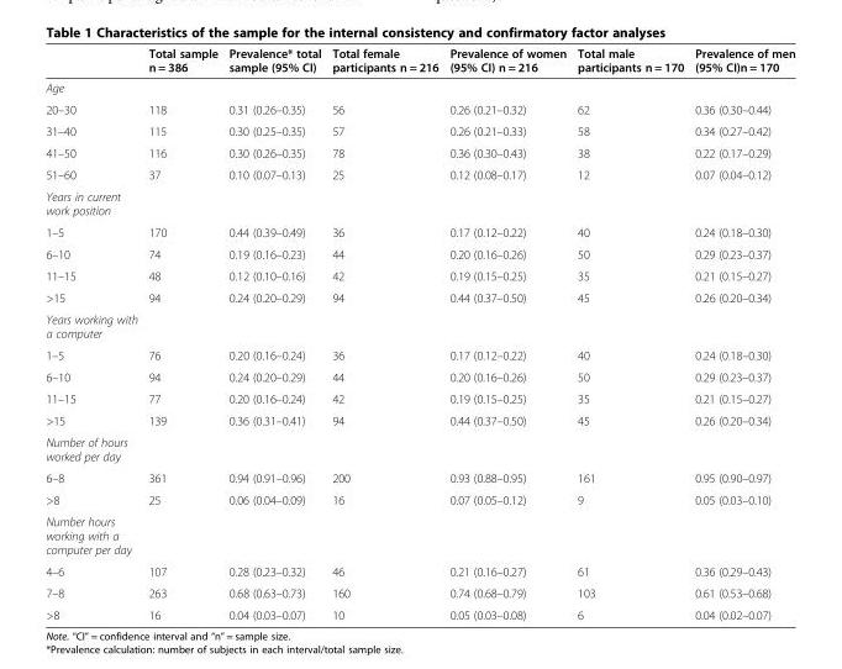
<table><thead><tr><td></td><td>Total sample n = 386</td><td>Prevalence* total sample (95% CI)</td><td>Total female participants n = 216</td><td>Prevalence of women (95% CI) n = 216</td><td>Total male participants n = 170</td><td>Prevalence of men (95% CI)n = 170</td></tr></thead><tbody><tr><td colspan="7">Age</td></tr><tr><td>20–30</td><td>118</td><td>0.31 (0.26–0.35)</td><td>56</td><td>0.26 (0.21–0.32)</td><td>62</td><td>0.36 (0.30–0.44)</td></tr><tr><td>31–40</td><td>115</td><td>0.30 (0.25–0.35)</td><td>57</td><td>0.26 (0.21–0.33)</td><td>58</td><td>0.34 (0.27–0.42)</td></tr><tr><td>41–50</td><td>116</td><td>0.30 (0.26–0.35)</td><td>78</td><td>0.36 (0.30–0.43)</td><td>38</td><td>0.22 (0.17–0.29)</td></tr><tr><td>51–60</td><td>37</td><td>0.10 (0.07–0.13)</td><td>25</td><td>0.12 (0.08–0.17)</td><td>12</td><td>0.07 (0.04–0.12)</td></tr><tr><td colspan="7">Years in current work position</td></tr><tr><td>1–5</td><td>170</td><td>0.44 (0.39–0.49)</td><td>36</td><td>0.17 (0.12–0.22)</td><td>40</td><td>0.24 (0.18–0.30)</td></tr><tr><td>6–10</td><td>74</td><td>0.19 (0.16–0.23)</td><td>44</td><td>0.20 (0.16–0.26)</td><td>50</td><td>0.29 (0.23–0.37)</td></tr><tr><td>11–15</td><td>48</td><td>0.12 (0.10–0.16)</td><td>42</td><td>0.19 (0.15–0.25)</td><td>35</td><td>0.21 (0.15–0.27)</td></tr><tr><td>&gt;15</td><td>94</td><td>0.24 (0.20–0.29)</td><td>94</td><td>0.44 (0.37–0.50)</td><td>45</td><td>0.26 (0.20–0.34)</td></tr><tr><td colspan="7">Years working with a computer</td></tr><tr><td>1–5</td><td>76</td><td>0.20 (0.16–0.24)</td><td>36</td><td>0.17 (0.12–0.22)</td><td>40</td><td>0.24 (0.18–0.30)</td></tr><tr><td>6–10</td><td>94</td><td>0.24 (0.20–0.29)</td><td>44</td><td>0.20 (0.16–0.26)</td><td>50</td><td>0.29 (0.23–0.37)</td></tr><tr><td>11–15</td><td>77</td><td>0.20 (0.16–0.24)</td><td>42</td><td>0.19 (0.15–0.25)</td><td>35</td><td>0.21 (0.15–0.27)</td></tr><tr><td>&gt;15</td><td>139</td><td>0.36 (0.31–0.41)</td><td>94</td><td>0.44 (0.37–0.50)</td><td>45</td><td>0.26 (0.20–0.34)</td></tr><tr><td colspan="7">Number of hours worked per day</td></tr><tr><td>6–8</td><td>361</td><td>0.94 (0.91–0.96)</td><td>200</td><td>0.93 (0.88–0.95)</td><td>161</td><td>0.95 (0.90–0.97)</td></tr><tr><td>&gt;8</td><td>25</td><td>0.06 (0.04–0.09)</td><td>16</td><td>0.07 (0.05–0.12)</td><td>9</td><td>0.05 (0.03–0.10)</td></tr><tr><td colspan="7">Number hours working with a computer per day</td></tr><tr><td>4–6</td><td>107</td><td>0.28 (0.23–0.32)</td><td>46</td><td>0.21 (0.16–0.27)</td><td>61</td><td>0.36 (0.29–0.43)</td></tr><tr><td>7–8</td><td>263</td><td>0.68 (0.63–0.73)</td><td>160</td><td>0.74 (0.68–0.79)</td><td>103</td><td>0.61 (0.53–0.68)</td></tr><tr><td>&gt;8</td><td>16</td><td>0.04 (0.03–0.07)</td><td>10</td><td>0.05 (0.03–0.08)</td><td>6</td><td>0.04 (0.02–0.07)</td></tr></tbody></table>